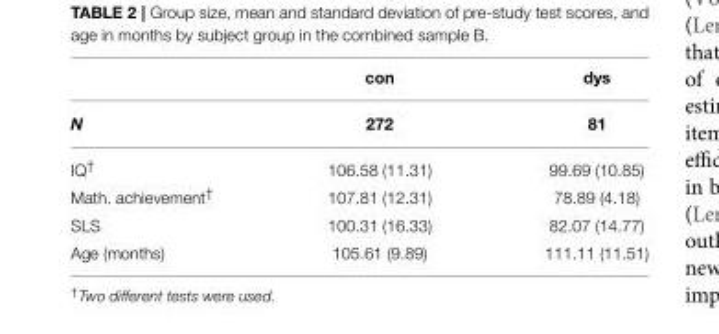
<table><thead><tr><td rowspan="2">N</td><td rowspan="2">con 272</td><td rowspan="2">dys 81</td></tr><tr></tr></thead><tbody><tr><td>IQ<sup>†</sup></td><td>106.58 (11.31)</td><td>99.69 (10.85)</td></tr><tr><td>Math. achievement<sup>†</sup></td><td>107.81 (12.31)</td><td>78.89 (4.18)</td></tr><tr><td>SLS</td><td>100.31 (16.33)</td><td>82.07 (14.77)</td></tr><tr><td>Age (months)</td><td>105.61 (9.89)</td><td>111.11 (11.51)</td></tr></tbody></table>